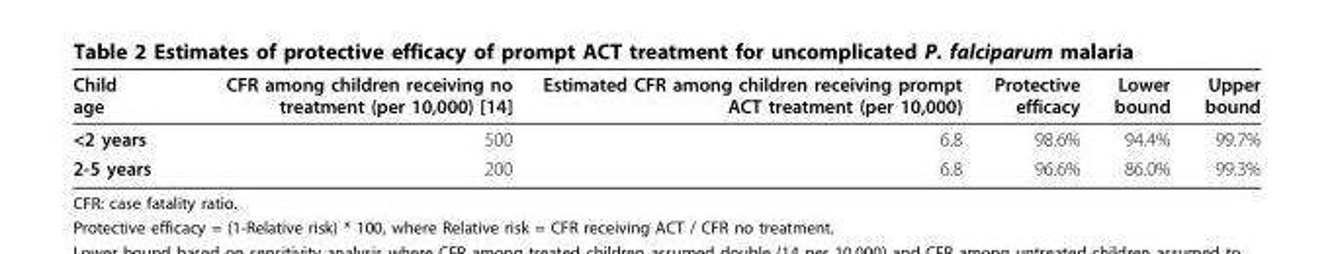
<table><thead><tr><td>Child age</td><td>CFR among children receiving no treatment (per 10,000) [14]</td><td>Estimated CFR among children receiving prompt ACT treatment (per 10,000)</td><td>Protective efficacy</td><td>Lower bound</td><td>Upper bound</td></tr></thead><tbody><tr><td>&lt;2 years</td><td>500</td><td>6.8</td><td>98.6%</td><td>94.4%</td><td>99.7%</td></tr><tr><td>2-5 years</td><td>200</td><td>6.8</td><td>96.6%</td><td>86.0%</td><td>99.3%</td></tr></tbody></table>